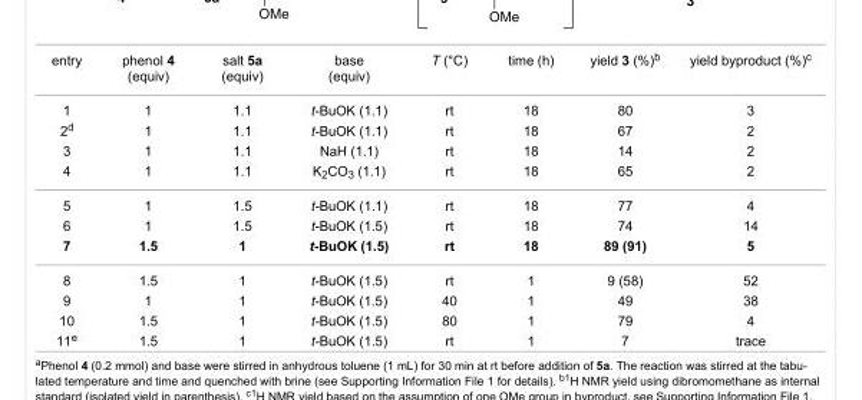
<table><tbody><tr><td>entry</td><td>phenol 4 (equiv)</td><td>salt 5a (equiv)</td><td>base (equiv)</td><td>T (°C)</td><td>time (h)</td><td>yield 3 (%)<sup>b</sup></td><td>yield byproduct (%)<sup>c</sup></td></tr><tr><td>1</td><td>1</td><td>1.1</td><td>t-BuOK (1.1)</td><td>rt</td><td>18</td><td>80</td><td>3</td></tr><tr><td>2<sup>d</sup></td><td>1</td><td>1.1</td><td>t-BuOK (1.1)</td><td>rt</td><td>18</td><td>67</td><td>2</td></tr><tr><td>3</td><td>1</td><td>1.1</td><td>NaH (1.1)</td><td>rt</td><td>18</td><td>14</td><td>2</td></tr><tr><td>4</td><td>1</td><td>1.1</td><td>K<sub>2</sub>CO<sub>3</sub> (1.1)</td><td>rt</td><td>18</td><td>65</td><td>2</td></tr><tr><td>5</td><td>1</td><td>1.5</td><td>t-BuOK (1.1)</td><td>rt</td><td>18</td><td>77</td><td>4</td></tr><tr><td>6</td><td>1</td><td>1.5</td><td>t-BuOK (1.5)</td><td>rt</td><td>18</td><td>74</td><td>14</td></tr><tr><td>7</td><td>1.5</td><td>1</td><td>t-BuOK (1.5)</td><td>rt</td><td>18</td><td>89 (91)</td><td>5</td></tr><tr><td>8</td><td>1.5</td><td>1</td><td>t-BuOK (1.5)</td><td>rt</td><td>1</td><td>9 (58)</td><td>52</td></tr><tr><td>9</td><td>1</td><td>1</td><td>t-BuOK (1.5)</td><td>40</td><td>1</td><td>49</td><td>38</td></tr><tr><td>10</td><td>1.5</td><td>1</td><td>t-BuOK (1.5)</td><td>80</td><td>1</td><td>79</td><td>4</td></tr><tr><td>11<sup>e</sup></td><td>1.5</td><td>1</td><td>t-BuOK (1.5)</td><td>rt</td><td>1</td><td>7</td><td>trace</td></tr></tbody></table>